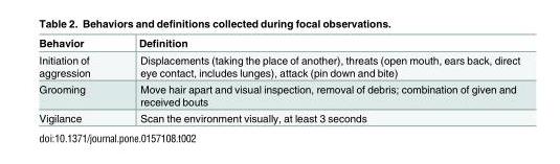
<table><thead><tr><td>Behavior</td><td>Definition</td></tr></thead><tbody><tr><td>Initiation of aggression</td><td>Displacements (taking the place of another), threats (open mouth, ears back, direct eye contact, includes lunges), attack (pin down and bite)</td></tr><tr><td>Grooming</td><td>Move hair apart and visual inspection, removal of debris; combination of given and received bouts</td></tr><tr><td>Vigilance</td><td>Scan the environment visually, at least 3 seconds</td></tr></tbody></table>